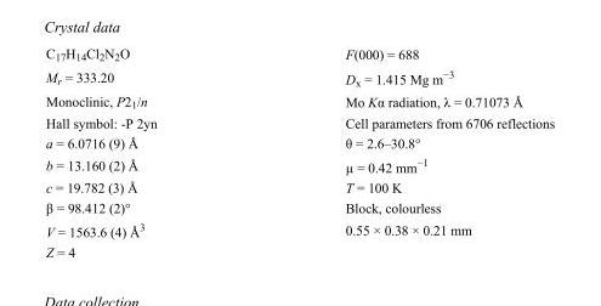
<table><tbody><tr><td>C<sub>17</sub>H<sub>14</sub>Cl<sub>2</sub>N<sub>2</sub>O</td><td>F(000) = 688</td></tr><tr><td>M<sub>r</sub> = 333.20</td><td>D<sub>x</sub> = 1.415 Mg m<sup>−3</sup></td></tr><tr><td>Monoclinic, P2<sub>1</sub>/n</td><td>Mo Kα radiation, λ = 0.71073 Å</td></tr><tr><td>Hall symbol: -P 2yn</td><td>Cell parameters from 6706 reflections</td></tr><tr><td>a = 6.0716 (9) Å</td><td>θ = 2.6–30.8°</td></tr><tr><td>b = 13.160 (2) Å</td><td>µ = 0.42 mm<sup>−1</sup></td></tr><tr><td>c = 19.782 (3) Å</td><td>T = 100 K</td></tr><tr><td>β = 98.412 (2)°</td><td>Block, colourless</td></tr><tr><td>V = 1563.6 (4) Å<sup>3</sup></td><td>0.55 × 0.38 × 0.21 mm</td></tr><tr><td>Z = 4</td><td></td></tr></tbody></table>